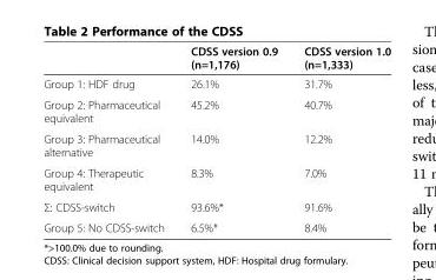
<table><thead><tr><td></td><td>CDSS version 0.9 (n=1,176)</td><td>CDSS version 1.0 (n=1,333)</td></tr></thead><tbody><tr><td>Group 1: HDF drug</td><td>26.1%</td><td>31.7%</td></tr><tr><td>Group 2: Pharmaceutical equivalent</td><td>45.2%</td><td>40.7%</td></tr><tr><td>Group 3: Pharmaceutical alternative</td><td>14.0%</td><td>12.2%</td></tr><tr><td>Group 4: Therapeutic equivalent</td><td>8.3%</td><td>7.0%</td></tr><tr><td>Σ: CDSS-switch</td><td>93.6%*</td><td>91.6%</td></tr><tr><td>Group 5: No CDSS-switch</td><td>6.5%*</td><td>8.4%</td></tr></tbody></table>